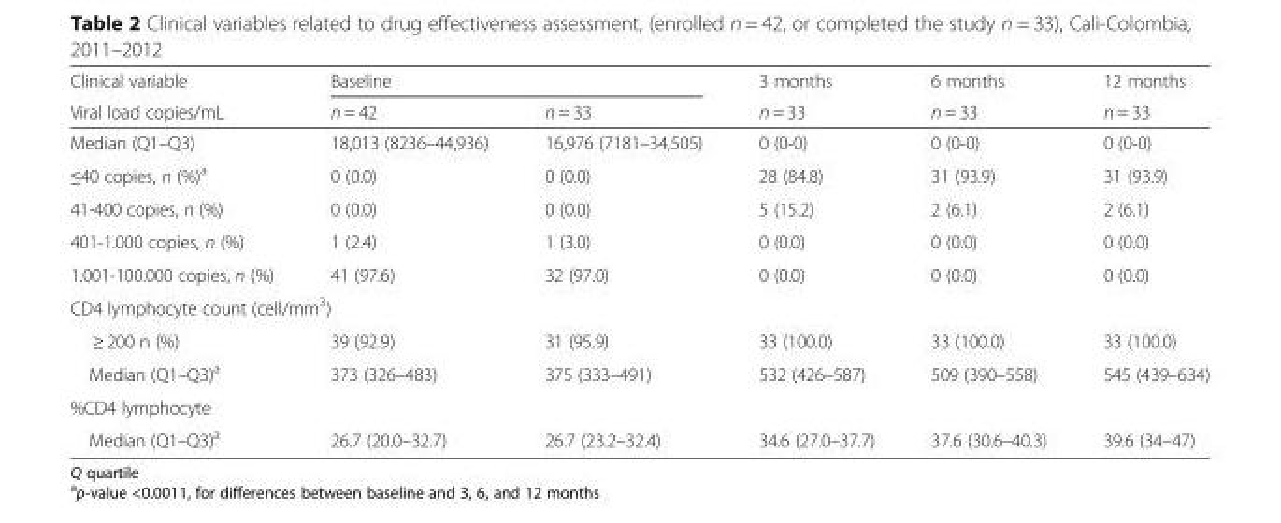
<table><thead><tr><td rowspan="2">Clinical variable Viral load copies/mL</td><td colspan="2">Baseline</td><td rowspan="2">3 months n = 33</td><td rowspan="2">6 months n = 33</td><td rowspan="2">12 months n = 33</td></tr><tr><td>n = 42</td><td>n = 33</td></tr></thead><tbody><tr><td>Median (Q1–Q3)</td><td>18,013 (8236–44,936)</td><td>16,976 (7181–34,505)</td><td>0 (0-0)</td><td>0 (0-0)</td><td>0 (0-0)</td></tr><tr><td>≤40 copies, n (%)<sup>a</sup></td><td>0 (0.0)</td><td>0 (0.0)</td><td>28 (84.8)</td><td>31 (93.9)</td><td>31 (93.9)</td></tr><tr><td>41-400 copies, n (%)</td><td>0 (0.0)</td><td>0 (0.0)</td><td>5 (15.2)</td><td>2 (6.1)</td><td>2 (6.1)</td></tr><tr><td>401-1.000 copies, n (%)</td><td>1 (2.4)</td><td>1 (3.0)</td><td>0 (0.0)</td><td>0 (0.0)</td><td>0 (0.0)</td></tr><tr><td>1.001-100.000 copies, n (%)</td><td>41 (97.6)</td><td>32 (97.0)</td><td>0 (0.0)</td><td>0 (0.0)</td><td>0 (0.0)</td></tr><tr><td colspan="6">CD4 lymphocyte count (cell/mm<sup>3</sup>)</td></tr><tr><td>≥ 200 n (%)</td><td>39 (92.9)</td><td>31 (95.9)</td><td>33 (100.0)</td><td>33 (100.0)</td><td>33 (100.0)</td></tr><tr><td>Median (Q1–Q3)<sup>a</sup></td><td>373 (326–483)</td><td>375 (333–491)</td><td>532 (426–587)</td><td>509 (390–558)</td><td>545 (439–634)</td></tr><tr><td colspan="6">%CD4 lymphocyte</td></tr><tr><td>Median (Q1–Q3)<sup>a</sup></td><td>26.7 (20.0–32.7)</td><td>26.7 (23.2–32.4)</td><td>34.6 (27.0–37.7)</td><td>37.6 (30.6–40.3)</td><td>39.6 (34–47)</td></tr></tbody></table>